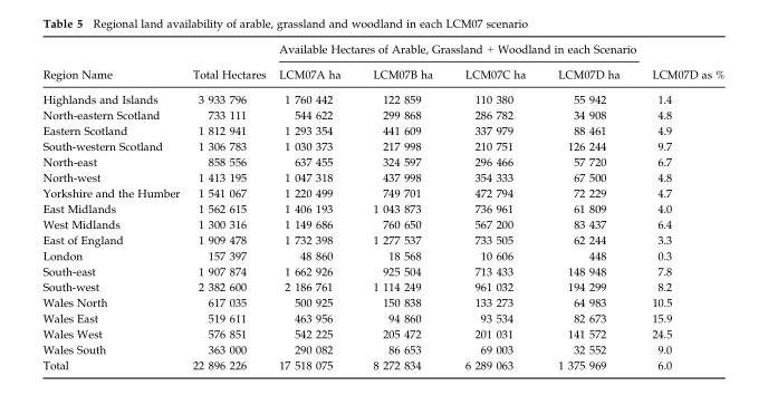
<table><thead><tr><td rowspan="2">Region Name</td><td rowspan="2">Total Hectares</td><td colspan="4">Available Hectares of Arable, Grassland + Woodland in each Scenario</td><td rowspan="2">LCM07D as %</td></tr><tr><td>LCM07A ha</td><td>LCM07B ha</td><td>LCM07C ha</td><td>LCM07D ha</td></tr></thead><tbody><tr><td>Highlands and Islands</td><td>3 933 796</td><td>1 760 442</td><td>122 859</td><td>110 380</td><td>55 942</td><td>1.4</td></tr><tr><td>North-eastern Scotland</td><td>733 111</td><td>544 622</td><td>299 868</td><td>286 782</td><td>34 908</td><td>4.8</td></tr><tr><td>Eastern Scotland</td><td>1 812 941</td><td>1 293 354</td><td>441 609</td><td>337 979</td><td>88 461</td><td>4.9</td></tr><tr><td>South-western Scotland</td><td>1 306 783</td><td>1 030 373</td><td>217 998</td><td>210 751</td><td>126 244</td><td>9.7</td></tr><tr><td>North-east</td><td>858 556</td><td>637 455</td><td>324 597</td><td>296 466</td><td>57 720</td><td>6.7</td></tr><tr><td>North-west</td><td>1 413 195</td><td>1 047 318</td><td>437 998</td><td>354 333</td><td>67 500</td><td>4.8</td></tr><tr><td>Yorkshire and the Humber</td><td>1 541 067</td><td>1 220 499</td><td>749 701</td><td>472 794</td><td>72 229</td><td>4.7</td></tr><tr><td>East Midlands</td><td>1 562 615</td><td>1 406 193</td><td>1 043 873</td><td>736 961</td><td>61 809</td><td>4.0</td></tr><tr><td>West Midlands</td><td>1 300 316</td><td>1 149 686</td><td>760 650</td><td>567 200</td><td>83 437</td><td>6.4</td></tr><tr><td>East of England</td><td>1 909 478</td><td>1 732 398</td><td>1 277 537</td><td>733 505</td><td>62 244</td><td>3.3</td></tr><tr><td>London</td><td>157 397</td><td>48 860</td><td>18 568</td><td>10 606</td><td>448</td><td>0.3</td></tr><tr><td>South-east</td><td>1 907 874</td><td>1 662 926</td><td>925 504</td><td>713 433</td><td>148 948</td><td>7.8</td></tr><tr><td>South-west</td><td>2 382 600</td><td>2 186 761</td><td>1 114 249</td><td>961 032</td><td>194 299</td><td>8.2</td></tr><tr><td>Wales North</td><td>617 035</td><td>500 925</td><td>150 838</td><td>133 273</td><td>64 983</td><td>10.5</td></tr><tr><td>Wales East</td><td>519 611</td><td>463 956</td><td>94 860</td><td>93 534</td><td>82 673</td><td>15.9</td></tr><tr><td>Wales West</td><td>576 851</td><td>542 225</td><td>205 472</td><td>201 031</td><td>141 572</td><td>24.5</td></tr><tr><td>Wales South</td><td>363 000</td><td>290 082</td><td>86 653</td><td>69 003</td><td>32 552</td><td>9.0</td></tr><tr><td>Total</td><td>22 896 226</td><td>17 518 075</td><td>8 272 834</td><td>6 289 063</td><td>1 375 969</td><td>6.0</td></tr></tbody></table>